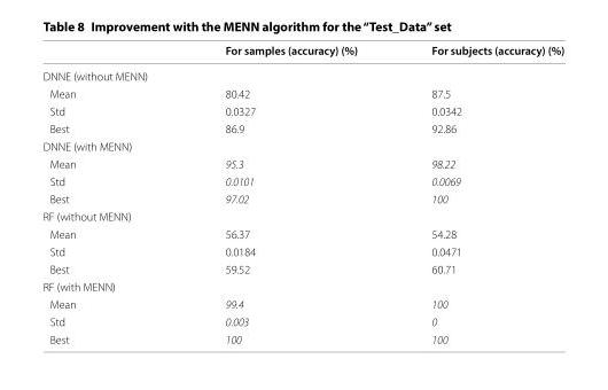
<table><thead><tr><td></td><td>For samples (accuracy) (%)</td><td>For subjects (accuracy) (%)</td></tr></thead><tbody><tr><td colspan="3">DNNE (without MENN)</td></tr><tr><td>Mean</td><td>80.42</td><td>87.5</td></tr><tr><td>Std</td><td>0.0327</td><td>0.0342</td></tr><tr><td>Best</td><td>86.9</td><td>92.86</td></tr><tr><td colspan="3">DNNE (with MENN)</td></tr><tr><td>Mean</td><td>95.3</td><td>98.22</td></tr><tr><td>Std</td><td>0.0101</td><td>0.0069</td></tr><tr><td>Best</td><td>97.02</td><td>100</td></tr><tr><td colspan="3">RF (without MENN)</td></tr><tr><td>Mean</td><td>56.37</td><td>54.28</td></tr><tr><td>Std</td><td>0.0184</td><td>0.0471</td></tr><tr><td>Best</td><td>59.52</td><td>60.71</td></tr><tr><td colspan="3">RF (with MENN)</td></tr><tr><td>Mean</td><td>99.4</td><td>100</td></tr><tr><td>Std</td><td>0.003</td><td>0</td></tr><tr><td>Best</td><td>100</td><td>100</td></tr></tbody></table>